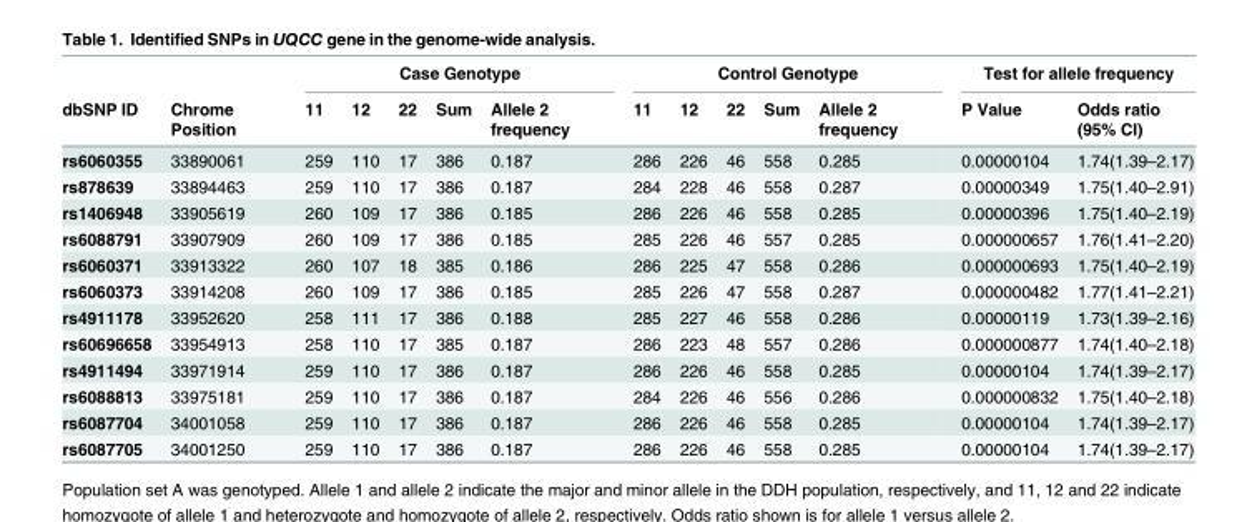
<table><thead><tr><td rowspan="2">dbSNP ID</td><td rowspan="2">Chrome Position</td><td colspan="5">Case Genotype</td><td colspan="5">Control Genotype</td><td colspan="2">Test for allele frequency</td></tr><tr><td>11</td><td>12</td><td>22</td><td>Sum</td><td>Allele 2 frequency</td><td>11</td><td>12</td><td>22</td><td>Sum</td><td>Allele 2 frequency</td><td>P Value</td><td>Odds ratio (95% CI)</td></tr></thead><tbody><tr><td>rs6060355</td><td>33890061</td><td>259</td><td>110</td><td>17</td><td>386</td><td>0.187</td><td>286</td><td>226</td><td>46</td><td>558</td><td>0.285</td><td>0.00000104</td><td>1.74(1.39–2.17)</td></tr><tr><td>rs878639</td><td>33894463</td><td>259</td><td>110</td><td>17</td><td>386</td><td>0.187</td><td>284</td><td>228</td><td>46</td><td>558</td><td>0.287</td><td>0.00000349</td><td>1.75(1.40–2.91)</td></tr><tr><td>rs1406948</td><td>33905619</td><td>260</td><td>109</td><td>17</td><td>386</td><td>0.185</td><td>286</td><td>226</td><td>46</td><td>558</td><td>0.285</td><td>0.00000396</td><td>1.75(1.40–2.19)</td></tr><tr><td>rs6088791</td><td>33907909</td><td>260</td><td>109</td><td>17</td><td>386</td><td>0.185</td><td>285</td><td>226</td><td>46</td><td>557</td><td>0.285</td><td>0.000000657</td><td>1.76(1.41–2.20)</td></tr><tr><td>rs6060371</td><td>33913322</td><td>260</td><td>107</td><td>18</td><td>385</td><td>0.186</td><td>286</td><td>225</td><td>47</td><td>558</td><td>0.286</td><td>0.000000693</td><td>1.75(1.40–2.19)</td></tr><tr><td>rs6060373</td><td>33914208</td><td>260</td><td>109</td><td>17</td><td>386</td><td>0.185</td><td>285</td><td>226</td><td>47</td><td>558</td><td>0.287</td><td>0.000000482</td><td>1.77(1.41–2.21)</td></tr><tr><td>rs4911178</td><td>33952620</td><td>258</td><td>111</td><td>17</td><td>386</td><td>0.188</td><td>285</td><td>227</td><td>46</td><td>558</td><td>0.286</td><td>0.00000119</td><td>1.73(1.39–2.16)</td></tr><tr><td>rs60696658</td><td>33954913</td><td>258</td><td>110</td><td>17</td><td>385</td><td>0.187</td><td>286</td><td>223</td><td>48</td><td>557</td><td>0.286</td><td>0.000000877</td><td>1.74(1.40–2.18)</td></tr><tr><td>rs4911494</td><td>33971914</td><td>259</td><td>110</td><td>17</td><td>386</td><td>0.187</td><td>286</td><td>226</td><td>46</td><td>558</td><td>0.285</td><td>0.00000104</td><td>1.74(1.39–2.17)</td></tr><tr><td>rs6088813</td><td>33975181</td><td>259</td><td>110</td><td>17</td><td>386</td><td>0.187</td><td>284</td><td>226</td><td>46</td><td>556</td><td>0.286</td><td>0.000000832</td><td>1.75(1.40–2.18)</td></tr><tr><td>rs6087704</td><td>34001058</td><td>259</td><td>110</td><td>17</td><td>386</td><td>0.187</td><td>286</td><td>226</td><td>46</td><td>558</td><td>0.285</td><td>0.00000104</td><td>1.74(1.39–2.17)</td></tr><tr><td>rs6087705</td><td>34001250</td><td>259</td><td>110</td><td>17</td><td>386</td><td>0.187</td><td>286</td><td>226</td><td>46</td><td>558</td><td>0.285</td><td>0.00000104</td><td>1.74(1.39–2.17)</td></tr></tbody></table>